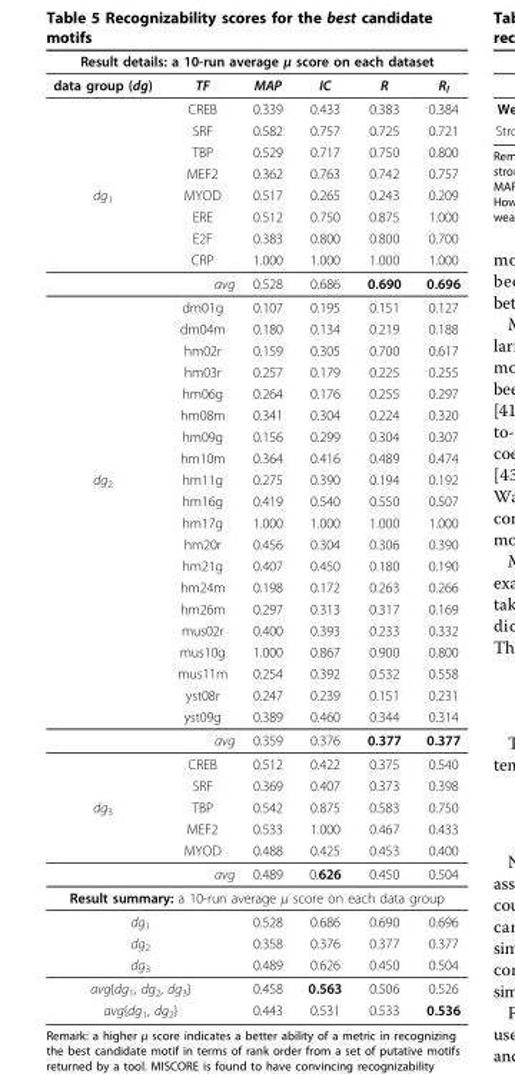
<table><thead><tr><td colspan="6">Result details: a 10-run average μ score on each dataset</td></tr><tr><td>data group (dg)</td><td>TF</td><td>MAP</td><td>IC</td><td>R</td><td>R<sub>l</sub></td></tr></thead><tbody><tr><td></td><td>CREB</td><td>0.339</td><td>0.433</td><td>0.383</td><td>0.384</td></tr><tr><td></td><td>SRF</td><td>0.582</td><td>0.757</td><td>0.725</td><td>0.721</td></tr><tr><td></td><td>TBP</td><td>0.529</td><td>0.717</td><td>0.750</td><td>0.800</td></tr><tr><td></td><td>MEF2</td><td>0.362</td><td>0.763</td><td>0.742</td><td>0.757</td></tr><tr><td rowspan="4">dg<sub>1</sub></td><td>MYOD</td><td>0.517</td><td>0.265</td><td>0.243</td><td>0.209</td></tr><tr><td>ERE</td><td>0.512</td><td>0.750</td><td>0.875</td><td>1.000</td></tr><tr><td>E2F</td><td>0.383</td><td>0.800</td><td>0.800</td><td>0.700</td></tr><tr><td>CRP</td><td>1.000</td><td>1.000</td><td>1.000</td><td>1.000</td></tr><tr><td colspan="2">avg</td><td>0.528</td><td>0.686</td><td>0.690</td><td>0.696</td></tr><tr><td></td><td>dm01g</td><td>0.107</td><td>0.195</td><td>0.151</td><td>0.127</td></tr><tr><td></td><td>dm04m</td><td>0.180</td><td>0.134</td><td>0.219</td><td>0.188</td></tr><tr><td></td><td>hm02r</td><td>0.159</td><td>0.305</td><td>0.700</td><td>0.617</td></tr><tr><td></td><td>hm03r</td><td>0.257</td><td>0.179</td><td>0.225</td><td>0.255</td></tr><tr><td></td><td>hm06g</td><td>0.264</td><td>0.176</td><td>0.255</td><td>0.297</td></tr><tr><td></td><td>hm08m</td><td>0.341</td><td>0.304</td><td>0.224</td><td>0.320</td></tr><tr><td></td><td>hm09g</td><td>0.156</td><td>0.299</td><td>0.304</td><td>0.307</td></tr><tr><td></td><td>hm10m</td><td>0.364</td><td>0.416</td><td>0.489</td><td>0.474</td></tr><tr><td rowspan="12">dg<sub>2</sub></td><td>hm11g</td><td>0.275</td><td>0.390</td><td>0.194</td><td>0.192</td></tr><tr><td>hm16g</td><td>0.419</td><td>0.540</td><td>0.550</td><td>0.507</td></tr><tr><td>hm17g</td><td>1.000</td><td>1.000</td><td>1.000</td><td>1.000</td></tr><tr><td>hm20r</td><td>0.456</td><td>0.304</td><td>0.306</td><td>0.390</td></tr><tr><td>hm21g</td><td>0.407</td><td>0.450</td><td>0.180</td><td>0.190</td></tr><tr><td>hm24m</td><td>0.198</td><td>0.172</td><td>0.263</td><td>0.266</td></tr><tr><td>hm26m</td><td>0.297</td><td>0.313</td><td>0.317</td><td>0.169</td></tr><tr><td>mus02r</td><td>0.400</td><td>0.393</td><td>0.233</td><td>0.332</td></tr><tr><td>mus10g</td><td>1.000</td><td>0.867</td><td>0.900</td><td>0.800</td></tr><tr><td>mus11m</td><td>0.254</td><td>0.392</td><td>0.532</td><td>0.558</td></tr><tr><td>yst08r</td><td>0.247</td><td>0.239</td><td>0.151</td><td>0.231</td></tr><tr><td>yst09g</td><td>0.389</td><td>0.460</td><td>0.344</td><td>0.314</td></tr><tr><td colspan="2">avg</td><td>0.359</td><td>0.376</td><td>0.377</td><td>0.377</td></tr><tr><td></td><td>CREB</td><td>0.512</td><td>0.422</td><td>0.375</td><td>0.540</td></tr><tr><td></td><td>SRF</td><td>0.369</td><td>0.407</td><td>0.373</td><td>0.398</td></tr><tr><td rowspan="3">dg<sub>3</sub></td><td>TBP</td><td>0.542</td><td>0.875</td><td>0.583</td><td>0.750</td></tr><tr><td>MEF2</td><td>0.533</td><td>1.000</td><td>0.467</td><td>0.433</td></tr><tr><td>MYOD</td><td>0.488</td><td>0.425</td><td>0.453</td><td>0.400</td></tr><tr><td colspan="2">avg</td><td>0.489</td><td>0.626</td><td>0.450</td><td>0.504</td></tr><tr><td colspan="6">Result summary: a 10-run average μ score on each data group</td></tr><tr><td colspan="2">dg<sub>1</sub></td><td>0.528</td><td>0.686</td><td>0.690</td><td>0.696</td></tr><tr><td colspan="2">dg<sub>2</sub></td><td>0.358</td><td>0.376</td><td>0.377</td><td>0.377</td></tr><tr><td colspan="2">dg<sub>3</sub></td><td>0.489</td><td>0.626</td><td>0.450</td><td>0.504</td></tr><tr><td colspan="2">avg{dg<sub>1</sub>, dg<sub>2</sub>, dg<sub>3</sub>}</td><td>0.458</td><td>0.563</td><td>0.506</td><td>0.526</td></tr><tr><td colspan="2">avg{dg<sub>1</sub>, dg<sub>2</sub>}</td><td>0.443</td><td>0.531</td><td>0.533</td><td>0.536</td></tr></tbody></table>